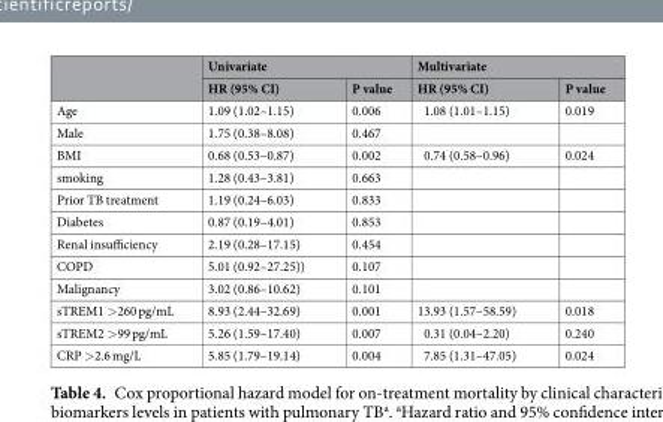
<table><thead><tr><td rowspan="2"></td><td colspan="2">Univariate</td><td colspan="2">Multivariate</td></tr><tr><td>HR (95% CI)</td><td>P value</td><td>HR (95% CI)</td><td>P value</td></tr></thead><tbody><tr><td>Age</td><td>1.09 (1.02–1.15)</td><td>0.006</td><td>1.08 (1.01–1.15)</td><td>0.019</td></tr><tr><td>Male</td><td>1.75 (0.38–8.08)</td><td>0.467</td><td></td><td></td></tr><tr><td>BMI</td><td>0.68 (0.53–0.87)</td><td>0.002</td><td>0.74 (0.58–0.96)</td><td>0.024</td></tr><tr><td>smoking</td><td>1.28 (0.43–3.81)</td><td>0.663</td><td></td><td></td></tr><tr><td>Prior TB treatment</td><td>1.19 (0.24–6.03)</td><td>0.833</td><td></td><td></td></tr><tr><td>Diabetes</td><td>0.87 (0.19–4.01)</td><td>0.853</td><td></td><td></td></tr><tr><td>Renal insufficiency</td><td>2.19 (0.28–17.15)</td><td>0.454</td><td></td><td></td></tr><tr><td>COPD</td><td>5.01 (0.92–27.25))</td><td>0.107</td><td></td><td></td></tr><tr><td>Malignancy</td><td>3.02 (0.86–10.62)</td><td>0.101</td><td></td><td></td></tr><tr><td>sTREM1 &gt;260 pg/mL</td><td>8.93 (2.44–32.69)</td><td>0.001</td><td>13.93 (1.57–58.59)</td><td>0.018</td></tr><tr><td>sTREM2 &gt;99 pg/mL</td><td>5.26 (1.59–17.40)</td><td>0.007</td><td>0.31 (0.04–2.20)</td><td>0.240</td></tr><tr><td>CRP &gt;2.6 mg/L</td><td>5.85 (1.79–19.14)</td><td>0.004</td><td>7.85 (1.31–47.05)</td><td>0.024</td></tr></tbody></table>